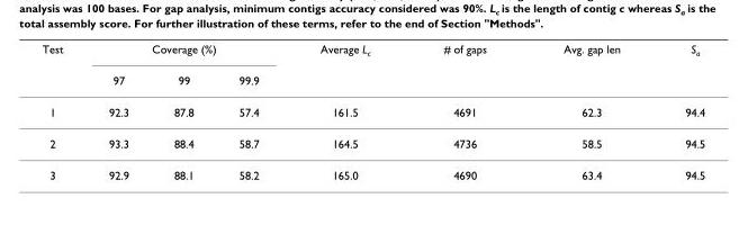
<table><thead><tr><td rowspan="2">Test</td><td colspan="3">Coverage (%)</td><td rowspan="2">Average L<sub>c</sub></td><td rowspan="2"># of gaps</td><td rowspan="2">Avg. gap len</td><td rowspan="2">S<sub>a</sub></td></tr><tr><td>97</td><td>99</td><td>99.9</td></tr></thead><tbody><tr><td>1</td><td>92.3</td><td>87.8</td><td>57.4</td><td>161.5</td><td>4691</td><td>62.3</td><td>94.4</td></tr><tr><td>2</td><td>93.3</td><td>88.4</td><td>58.7</td><td>164.5</td><td>4736</td><td>58.5</td><td>94.5</td></tr><tr><td>3</td><td>92.9</td><td>88.1</td><td>58.2</td><td>165.0</td><td>4690</td><td>63.4</td><td>94.5</td></tr></tbody></table>